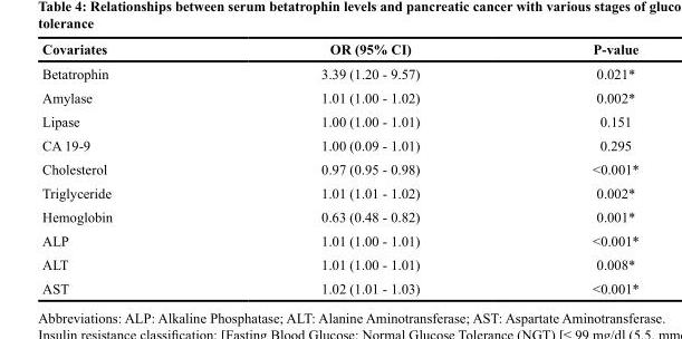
<table><thead><tr><td>Covariates</td><td>OR (95% CI)</td><td>P-value</td></tr></thead><tbody><tr><td>Betatrophin</td><td>3.39 (1.20 - 9.57)</td><td>0.021*</td></tr><tr><td>Amylase</td><td>1.01 (1.00 - 1.02)</td><td>0.002*</td></tr><tr><td>Lipase</td><td>1.00 (1.00 - 1.01)</td><td>0.151</td></tr><tr><td>CA 19-9</td><td>1.00 (0.09 - 1.01)</td><td>0.295</td></tr><tr><td>Cholesterol</td><td>0.97 (0.95 - 0.98)</td><td>&lt;0.001*</td></tr><tr><td>Triglyceride</td><td>1.01 (1.01 - 1.02)</td><td>0.002*</td></tr><tr><td>Hemoglobin</td><td>0.63 (0.48 - 0.82)</td><td>0.001*</td></tr><tr><td>ALP</td><td>1.01 (1.00 - 1.01)</td><td>&lt;0.001*</td></tr><tr><td>ALT</td><td>1.01 (1.00 - 1.01)</td><td>0.008*</td></tr><tr><td>AST</td><td>1.02 (1.01 - 1.03)</td><td>&lt;0.001*</td></tr></tbody></table>